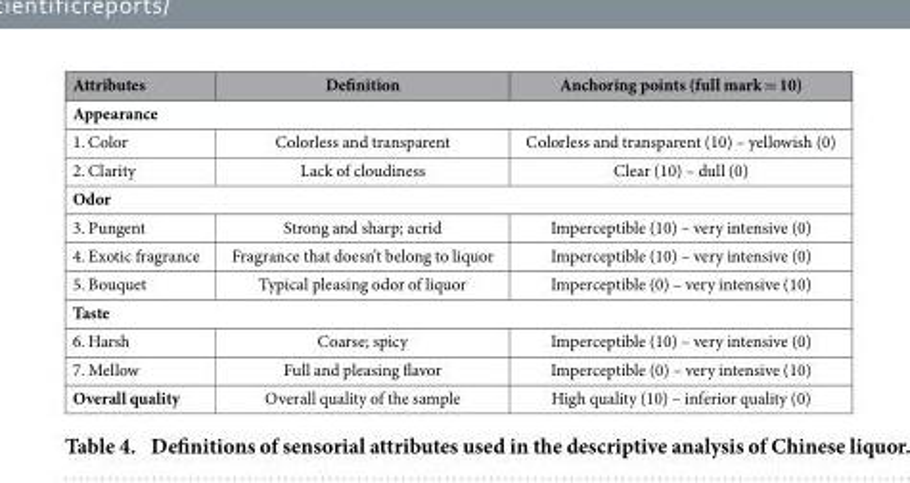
<table><thead><tr><td>Attributes</td><td>Definition</td><td>Anchoring points (full mark = 10)</td></tr></thead><tbody><tr><td colspan="3">Appearance</td></tr><tr><td>1. Color</td><td>Colorless and transparent</td><td>Colorless and transparent (10) – yellowish (0)</td></tr><tr><td>2. Clarity</td><td>Lack of cloudiness</td><td>Clear (10) – dull (0)</td></tr><tr><td colspan="3">Odor</td></tr><tr><td>3. Pungent</td><td>Strong and sharp; acrid</td><td>Imperceptible (10) – very intensive (0)</td></tr><tr><td>4. Exotic fragrance</td><td>Fragrance that doesn’t belong to liquor</td><td>Imperceptible (10) – very intensive (0)</td></tr><tr><td>5. Bouquet</td><td>Typical pleasing odor of liquor</td><td>Imperceptible (0) – very intensive (10)</td></tr><tr><td colspan="3">Taste</td></tr><tr><td>6. Harsh</td><td>Coarse; spicy</td><td>Imperceptible (10) – very intensive (0)</td></tr><tr><td>7. Mellow</td><td>Full and pleasing flavor</td><td>Imperceptible (0) – very intensive (10)</td></tr><tr><td>Overall quality</td><td>Overall quality of the sample</td><td>High quality (10) – inferior quality (0)</td></tr></tbody></table>